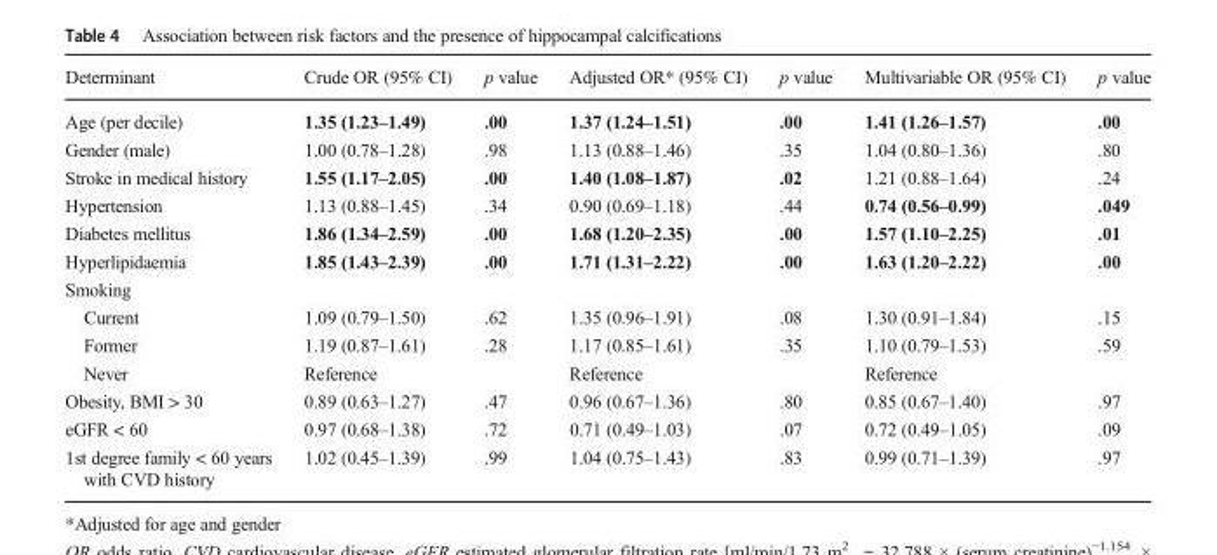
<table><thead><tr><td>Determinant</td><td>Crude OR (95% CI)</td><td>p value</td><td>Adjusted OR* (95% CI)</td><td>p value</td><td>Multivariable OR (95% CI)</td><td>p value</td></tr></thead><tbody><tr><td>Age (per decile)</td><td>1.35 (1.23–1.49)</td><td>.00</td><td>1.37 (1.24–1.51)</td><td>.00</td><td>1.41 (1.26–1.57)</td><td>.00</td></tr><tr><td>Gender (male)</td><td>1.00 (0.78–1.28)</td><td>.98</td><td>1.13 (0.88–1.46)</td><td>.35</td><td>1.04 (0.80–1.36)</td><td>.80</td></tr><tr><td>Stroke in medical history</td><td>1.55 (1.17–2.05)</td><td>.00</td><td>1.40 (1.08–1.87)</td><td>.02</td><td>1.21 (0.88–1.64)</td><td>.24</td></tr><tr><td>Hypertension</td><td>1.13 (0.88–1.45)</td><td>.34</td><td>0.90 (0.69–1.18)</td><td>.44</td><td>0.74 (0.56–0.99)</td><td>.049</td></tr><tr><td>Diabetes mellitus</td><td>1.86 (1.34–2.59)</td><td>.00</td><td>1.68 (1.20–2.35)</td><td>.00</td><td>1.57 (1.10–2.25)</td><td>.01</td></tr><tr><td>Hyperlipidaemia</td><td>1.85 (1.43–2.39)</td><td>.00</td><td>1.71 (1.31–2.22)</td><td>.00</td><td>1.63 (1.20–2.22)</td><td>.00</td></tr><tr><td colspan="7">Smoking</td></tr><tr><td>Current</td><td>1.09 (0.79–1.50)</td><td>.62</td><td>1.35 (0.96–1.91)</td><td>.08</td><td>1.30 (0.91–1.84)</td><td>.15</td></tr><tr><td>Former</td><td>1.19 (0.87–1.61)</td><td>.28</td><td>1.17 (0.85–1.61)</td><td>.35</td><td>1.10 (0.79–1.53)</td><td>.59</td></tr><tr><td>Never</td><td>Reference</td><td></td><td>Reference</td><td></td><td>Reference</td><td></td></tr><tr><td>Obesity, BMI &gt; 30</td><td>0.89 (0.63–1.27)</td><td>.47</td><td>0.96 (0.67–1.36)</td><td>.80</td><td>0.85 (0.67–1.40)</td><td>.97</td></tr><tr><td>eGFR &lt; 60</td><td>0.97 (0.68–1.38)</td><td>.72</td><td>0.71 (0.49–1.03)</td><td>.07</td><td>0.72 (0.49–1.05)</td><td>.09</td></tr><tr><td>1st degree family &lt; 60 years with CVD history</td><td>1.02 (0.45–1.39)</td><td>.99</td><td>1.04 (0.75–1.43)</td><td>.83</td><td>0.99 (0.71–1.39)</td><td>.97</td></tr></tbody></table>